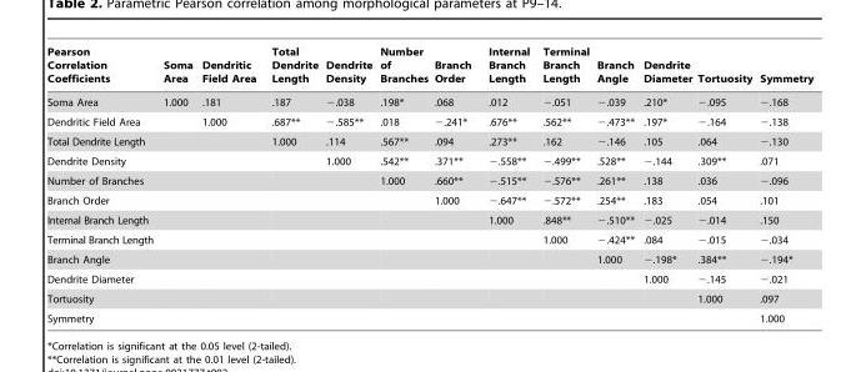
<table><thead><tr><td>Pearson Correlation Coefficients</td><td>Soma Area</td><td>Dendritic Field Area</td><td>Total Dendrite Length</td><td>Dendrite Density</td><td>Number of Branches</td><td>Branch Order</td><td>Internal Branch Length</td><td>Terminal Branch Length</td><td>Branch Angle</td><td>Dendrite Diameter</td><td>Tortuosity</td><td>Symmetry</td></tr></thead><tbody><tr><td>Soma Area</td><td>1.000</td><td>.181</td><td>.187</td><td>−.038</td><td>.198*</td><td>.068</td><td>.012</td><td>−.051</td><td>−.039</td><td>.210*</td><td>−.095</td><td>−.168</td></tr><tr><td>Dendritic Field Area</td><td></td><td>1.000</td><td>.687**</td><td>−.585**</td><td>.018</td><td>−.241*</td><td>.676**</td><td>.562**</td><td>−.473**</td><td>.197*</td><td>−.164</td><td>−.138</td></tr><tr><td>Total Dendrite Length</td><td></td><td></td><td>1.000</td><td>.114</td><td>.567**</td><td>.094</td><td>.273**</td><td>.162</td><td>−.146</td><td>.105</td><td>.064</td><td>−.130</td></tr><tr><td>Dendrite Density</td><td></td><td></td><td></td><td>1.000</td><td>.542**</td><td>.371**</td><td>−.558**</td><td>−.499**</td><td>.528**</td><td>−.144</td><td>.309**</td><td>.071</td></tr><tr><td>Number of Branches</td><td></td><td></td><td></td><td></td><td>1.000</td><td>.660**</td><td>−.515**</td><td>−.576**</td><td>.261**</td><td>.138</td><td>.036</td><td>−.096</td></tr><tr><td>Branch Order</td><td></td><td></td><td></td><td></td><td></td><td>1.000</td><td>−.647**</td><td>−.572**</td><td>.254**</td><td>.183</td><td>.054</td><td>.101</td></tr><tr><td>Internal Branch Length</td><td></td><td></td><td></td><td></td><td></td><td></td><td>1.000</td><td>.848**</td><td>−.510**</td><td>−.025</td><td>−.014</td><td>.150</td></tr><tr><td>Terminal Branch Length</td><td></td><td></td><td></td><td></td><td></td><td></td><td></td><td>1.000</td><td>−.424**</td><td>.084</td><td>−.015</td><td>−.034</td></tr><tr><td>Branch Angle</td><td></td><td></td><td></td><td></td><td></td><td></td><td></td><td></td><td>1.000</td><td>−.198*</td><td>.384**</td><td>−.194*</td></tr><tr><td>Dendrite Diameter</td><td></td><td></td><td></td><td></td><td></td><td></td><td></td><td></td><td></td><td>1.000</td><td>−.145</td><td>−.021</td></tr><tr><td>Tortuosity</td><td></td><td></td><td></td><td></td><td></td><td></td><td></td><td></td><td></td><td></td><td>1.000</td><td>.097</td></tr><tr><td>Symmetry</td><td></td><td></td><td></td><td></td><td></td><td></td><td></td><td></td><td></td><td></td><td></td><td>1.000</td></tr></tbody></table>